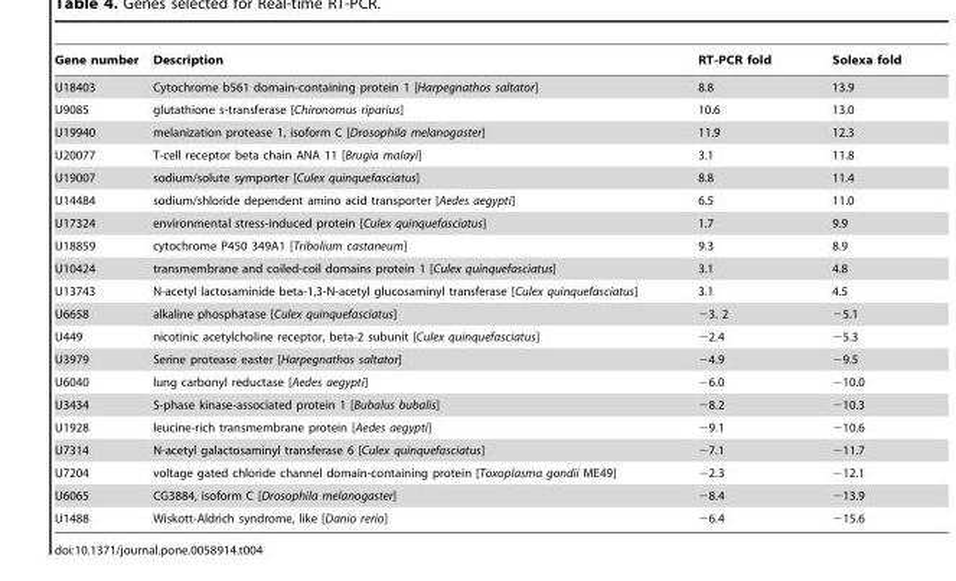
<table><thead><tr><td>Gene number</td><td>Description</td><td>RT-PCR fold</td><td>Solexa fold</td></tr></thead><tbody><tr><td>U18403</td><td>Cytochrome b561 domain-containing protein 1 [Harpegnathos saltator]</td><td>8.8</td><td>13.9</td></tr><tr><td>U9085</td><td>glutathione s-transferase [Chironomus riparius]</td><td>10.6</td><td>13.0</td></tr><tr><td>U19940</td><td>melanization protease 1, isoform C [Drosophila melanogaster]</td><td>11.9</td><td>12.3</td></tr><tr><td>U20077</td><td>T-cell receptor beta chain ANA 11 [Brugia malayi]</td><td>3.1</td><td>11.8</td></tr><tr><td>U19007</td><td>sodium/solute symporter [Culex quinquefasciatus]</td><td>8.8</td><td>11.4</td></tr><tr><td>U14484</td><td>sodium/shloride dependent amino acid transporter [Aedes aegypti]</td><td>6.5</td><td>11.0</td></tr><tr><td>U17324</td><td>environmental stress-induced protein [Culex quinquefasciatus]</td><td>1.7</td><td>9.9</td></tr><tr><td>U18859</td><td>cytochrome P450 349A1 [Tribolium castaneum]</td><td>9.3</td><td>8.9</td></tr><tr><td>U10424</td><td>transmembrane and coiled-coil domains protein 1 [Culex quinquefasciatus]</td><td>3.1</td><td>4.8</td></tr><tr><td>U13743</td><td>N-acetyl lactosaminide beta-1,3-N-acetyl glucosaminyl transferase [Culex quinquefasciatus]</td><td>3.1</td><td>4.5</td></tr><tr><td>U6658</td><td>alkaline phosphatase [Culex quinquefasciatus]</td><td>−3. 2</td><td>−5.1</td></tr><tr><td>U449</td><td>nicotinic acetylcholine receptor, beta-2 subunit [Culex quinquefasciatus]</td><td>−2.4</td><td>−5.3</td></tr><tr><td>U3979</td><td>Serine protease easter [Harpegnathos saltator]</td><td>−4.9</td><td>−9.5</td></tr><tr><td>U6040</td><td>lung carbonyl reductase [Aedes aegypti]</td><td>−6.0</td><td>−10.0</td></tr><tr><td>U3434</td><td>S-phase kinase-associated protein 1 [Bubalus bubalis]</td><td>−8.2</td><td>−10.3</td></tr><tr><td>U1928</td><td>leucine-rich transmembrane protein [Aedes aegypti]</td><td>−9.1</td><td>−10.6</td></tr><tr><td>U7314</td><td>N-acetyl galactosaminyl transferase 6 [Culex quinquefasciatus]</td><td>−7.1</td><td>−11.7</td></tr><tr><td>U7204</td><td>voltage gated chloride channel domain-containing protein [Toxoplasma gondii ME49]</td><td>−2.3</td><td>−12.1</td></tr><tr><td>U6065</td><td>CG3884, isoform C [Drosophila melanogaster]</td><td>−8.4</td><td>−13.9</td></tr><tr><td>U1488</td><td>Wiskott-Aldrich syndrome, like [Danio rerio]</td><td>−6.4</td><td>−15.6</td></tr></tbody></table>